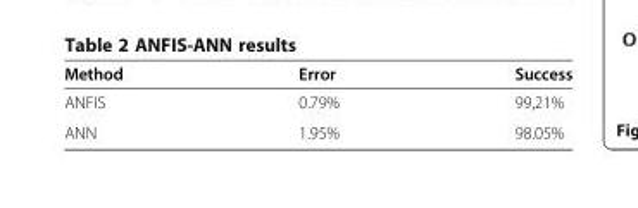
<table><thead><tr><td>Method</td><td>Error</td><td>Success</td></tr></thead><tbody><tr><td>ANFIS</td><td>0.79%</td><td>99,21%</td></tr><tr><td>ANN</td><td>1.95%</td><td>98.05%</td></tr></tbody></table>